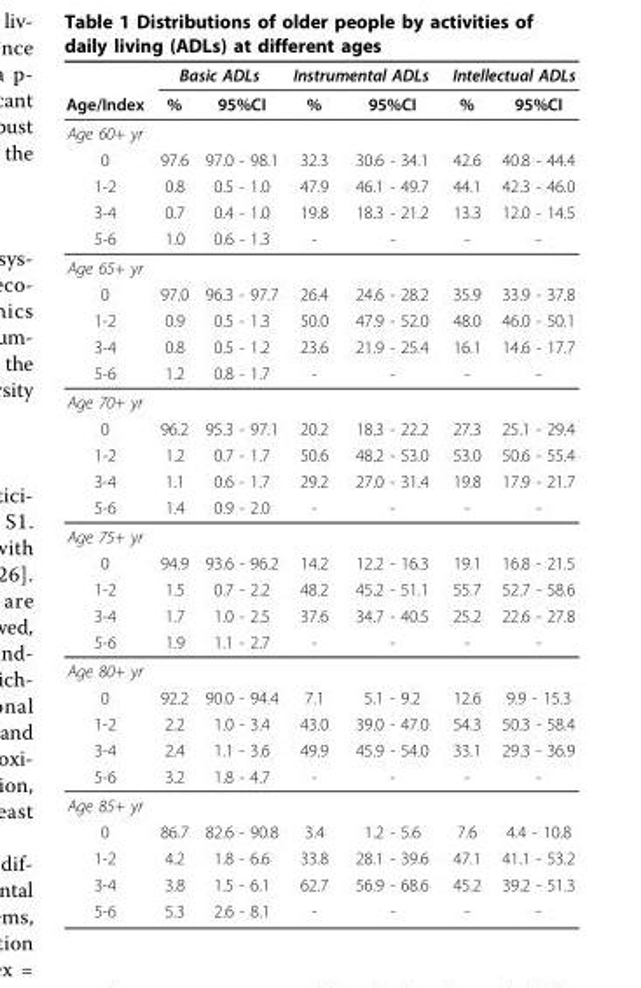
<table><thead><tr><td rowspan="2">Age/Index</td><td colspan="2">Basic ADLs</td><td colspan="2">Instrumental ADLs</td><td colspan="2">Intellectual ADLs</td></tr><tr><td>%</td><td>95%CI</td><td>%</td><td>95%CI</td><td>%</td><td>95%CI</td></tr></thead><tbody><tr><td colspan="7">Age 60+ yr</td></tr><tr><td>0</td><td>97.6</td><td>97.0 - 98.1</td><td>32.3</td><td>30.6 - 34.1</td><td>42.6</td><td>40.8 - 44.4</td></tr><tr><td>1-2</td><td>0.8</td><td>0.5 - 1.0</td><td>47.9</td><td>46.1 - 49.7</td><td>44.1</td><td>42.3 - 46.0</td></tr><tr><td>3-4</td><td>0.7</td><td>0.4 - 1.0</td><td>19.8</td><td>18.3 - 21.2</td><td>13.3</td><td>12.0 - 14.5</td></tr><tr><td>5-6</td><td>1.0</td><td>0.6 - 1.3</td><td>-</td><td>-</td><td>-</td><td>-</td></tr><tr><td colspan="7">Age 65+ yr</td></tr><tr><td>0</td><td>97.0</td><td>96.3 - 97.7</td><td>26.4</td><td>24.6 - 28.2</td><td>35.9</td><td>33.9 - 37.8</td></tr><tr><td>1-2</td><td>0.9</td><td>0.5 - 1.3</td><td>50.0</td><td>47.9 - 52.0</td><td>48.0</td><td>46.0 - 50.1</td></tr><tr><td>3-4</td><td>0.8</td><td>0.5 - 1.2</td><td>23.6</td><td>21.9 - 25.4</td><td>16.1</td><td>14.6 - 17.7</td></tr><tr><td>5-6</td><td>1.2</td><td>0.8 - 1.7</td><td>-</td><td>-</td><td>-</td><td>-</td></tr><tr><td colspan="7">Age 70+ yr</td></tr><tr><td>0</td><td>96.2</td><td>95.3 - 97.1</td><td>20.2</td><td>18.3 - 22.2</td><td>27.3</td><td>25.1 - 29.4</td></tr><tr><td>1-2</td><td>1.2</td><td>0.7 - 1.7</td><td>50.6</td><td>48.2 - 53.0</td><td>53.0</td><td>50.6 - 55.4</td></tr><tr><td>3-4</td><td>1.1</td><td>0.6 - 1.7</td><td>29.2</td><td>27.0 - 31.4</td><td>19.8</td><td>17.9 - 21.7</td></tr><tr><td>5-6</td><td>1.4</td><td>0.9 - 2.0</td><td>-</td><td>-</td><td>-</td><td>-</td></tr><tr><td colspan="7">Age 75+ yr</td></tr><tr><td>0</td><td>94.9</td><td>93.6 - 96.2</td><td>14.2</td><td>12.2 - 16.3</td><td>19.1</td><td>16.8 - 21.5</td></tr><tr><td>1-2</td><td>1.5</td><td>0.7 - 2.2</td><td>48.2</td><td>45.2 - 51.1</td><td>55.7</td><td>52.7 - 58.6</td></tr><tr><td>3-4</td><td>1.7</td><td>1.0 - 2.5</td><td>37.6</td><td>34.7 - 40.5</td><td>25.2</td><td>22.6 - 27.8</td></tr><tr><td>5-6</td><td>1.9</td><td>1.1 - 2.7</td><td>-</td><td>-</td><td>-</td><td>-</td></tr><tr><td colspan="7">Age 80+ yr</td></tr><tr><td>0</td><td>92.2</td><td>90.0 - 94.4</td><td>7.1</td><td>5.1 - 9.2</td><td>12.6</td><td>9.9 - 15.3</td></tr><tr><td>1-2</td><td>2.2</td><td>1.0 - 3.4</td><td>43.0</td><td>39.0 - 47.0</td><td>54.3</td><td>50.3 - 58.4</td></tr><tr><td>3-4</td><td>2.4</td><td>1.1 - 3.6</td><td>49.9</td><td>45.9 - 54.0</td><td>33.1</td><td>29.3 - 36.9</td></tr><tr><td>5-6</td><td>3.2</td><td>1.8 - 4.7</td><td>-</td><td>-</td><td>-</td><td>-</td></tr><tr><td colspan="7">Age 85+ yr</td></tr><tr><td>0</td><td>86.7</td><td>82.6 - 90.8</td><td>3.4</td><td>1.2 - 5.6</td><td>7.6</td><td>4.4 - 10.8</td></tr><tr><td>1-2</td><td>4.2</td><td>1.8 - 6.6</td><td>33.8</td><td>28.1 - 39.6</td><td>47.1</td><td>41.1 - 53.2</td></tr><tr><td>3-4</td><td>3.8</td><td>1.5 - 6.1</td><td>62.7</td><td>56.9 - 68.6</td><td>45.2</td><td>39.2 - 51.3</td></tr><tr><td>5-6</td><td>5.3</td><td>2.6 - 8.1</td><td>-</td><td>-</td><td>-</td><td>-</td></tr></tbody></table>